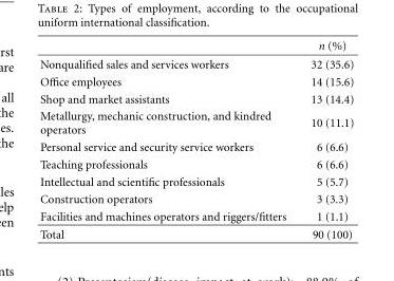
<table><thead><tr><td></td><td>n (%)</td></tr></thead><tbody><tr><td>Nonqualified sales and services workers</td><td>32 (35.6)</td></tr><tr><td>Office employees</td><td>14 (15.6)</td></tr><tr><td>Shop and market assistants</td><td>13 (14.4)</td></tr><tr><td>Metallurgy, mechanic construction, and kindred operators</td><td>10 (11.1)</td></tr><tr><td>Personal service and security service workers</td><td>6 (6.6)</td></tr><tr><td>Teaching professionals</td><td>6 (6.6)</td></tr><tr><td>Intellectual and scientific professionals</td><td>5 (5.7)</td></tr><tr><td>Construction operators</td><td>3 (3.3)</td></tr><tr><td>Facilities and machines operators and riggers/fitters</td><td>1 (1.1)</td></tr><tr><td>Total</td><td>90 (100)</td></tr></tbody></table>